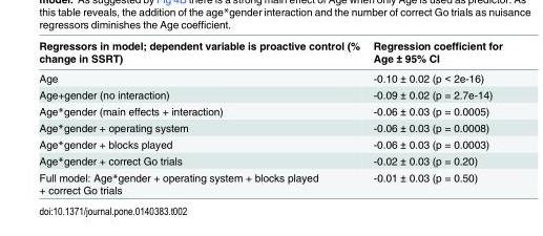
<table><thead><tr><td>Regressors in model; dependent variable is proactive control (% change in SSRT)</td><td>Regression coefficient for Age ± 95% CI</td></tr></thead><tbody><tr><td>Age</td><td>-0.10 ± 0.02 (p &lt; 2e-16)</td></tr><tr><td>Age+gender (no interaction)</td><td>-0.09 ± 0.02 (p = 2.7e-14)</td></tr><tr><td>Age*gender (main effects + interaction)</td><td>-0.06 ± 0.03 (p = 0.0005)</td></tr><tr><td>Age*gender + operating system</td><td>-0.06 ± 0.03 (p = 0.0008)</td></tr><tr><td>Age*gender + blocks played</td><td>-0.06 ± 0.03 (p = 0.0003)</td></tr><tr><td>Age*gender + correct Go trials</td><td>-0.02 ± 0.03 (p = 0.20)</td></tr><tr><td>Full model: Age*gender + operating system + blocks played + correct Go trials</td><td>-0.01 ± 0.03 (p = 0.50)</td></tr></tbody></table>